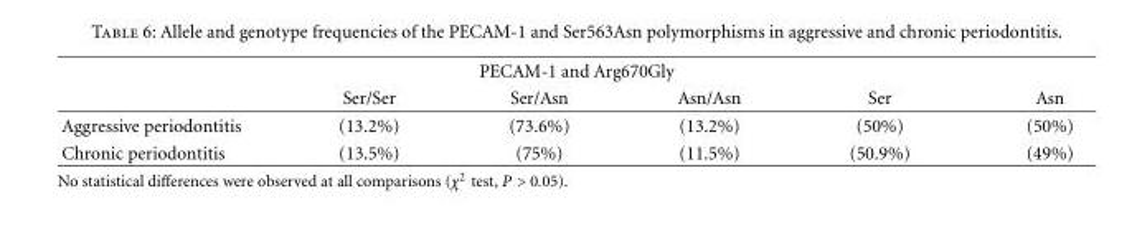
<table><thead><tr><td colspan="6">PECAM-1 and Arg670Gly</td></tr><tr><td></td><td>Ser/Ser</td><td>Ser/Asn</td><td>Asn/Asn</td><td>Ser</td><td>Asn</td></tr></thead><tbody><tr><td>Aggressive periodontitis</td><td>(13.2%)</td><td>(73.6%)</td><td>(13.2%)</td><td>(50%)</td><td>(50%)</td></tr><tr><td>Chronic periodontitis</td><td>(13.5%)</td><td>(75%)</td><td>(11.5%)</td><td>(50.9%)</td><td>(49%)</td></tr></tbody></table>